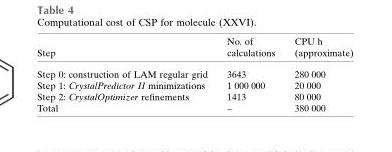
<table><thead><tr><td>Step</td><td>No. of calculations</td><td>CPU h (approximate)</td></tr></thead><tbody><tr><td>Step 0: construction of LAM regular grid</td><td>3643</td><td>280 000</td></tr><tr><td>Step 1: CrystalPredictor II minimizations</td><td>1 000 000</td><td>20 000</td></tr><tr><td>Step 2: CrystalOptimizer refinements</td><td>1413</td><td>80 000</td></tr><tr><td>Total</td><td>–</td><td>380 000</td></tr></tbody></table>